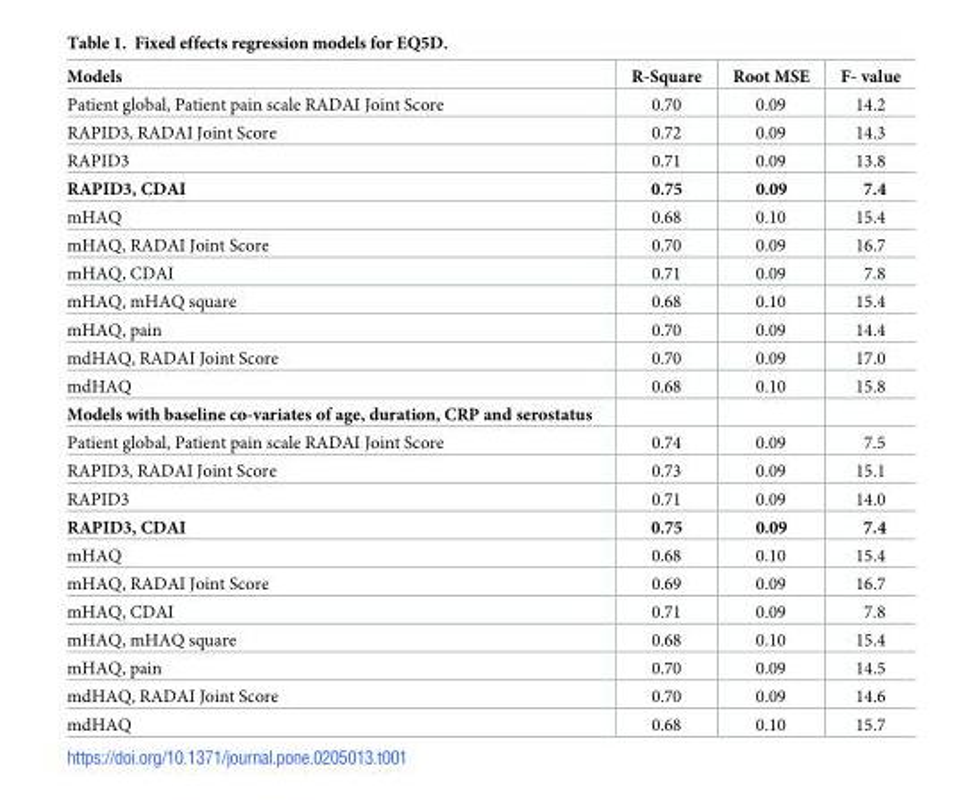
<table><thead><tr><td>Models</td><td>R-Square</td><td>Root MSE</td><td>F- value</td></tr></thead><tbody><tr><td>Patient global, Patient pain scale RADAI Joint Score</td><td>0.70</td><td>0.09</td><td>14.2</td></tr><tr><td>RAPID3, RADAI Joint Score</td><td>0.72</td><td>0.09</td><td>14.3</td></tr><tr><td>RAPID3</td><td>0.71</td><td>0.09</td><td>13.8</td></tr><tr><td>RAPID3, CDAI</td><td>0.75</td><td>0.09</td><td>7.4</td></tr><tr><td>mHAQ</td><td>0.68</td><td>0.10</td><td>15.4</td></tr><tr><td>mHAQ, RADAI Joint Score</td><td>0.70</td><td>0.09</td><td>16.7</td></tr><tr><td>mHAQ, CDAI</td><td>0.71</td><td>0.09</td><td>7.8</td></tr><tr><td>mHAQ, mHAQ square</td><td>0.68</td><td>0.10</td><td>15.4</td></tr><tr><td>mHAQ, pain</td><td>0.70</td><td>0.09</td><td>14.4</td></tr><tr><td>mdHAQ, RADAI Joint Score</td><td>0.70</td><td>0.09</td><td>17.0</td></tr><tr><td>mdHAQ</td><td>0.68</td><td>0.10</td><td>15.8</td></tr><tr><td colspan="4">Models with baseline co-variates of age, duration, CRP and serostatus</td></tr><tr><td>Patient global, Patient pain scale RADAI Joint Score</td><td>0.74</td><td>0.09</td><td>7.5</td></tr><tr><td>RAPID3, RADAI Joint Score</td><td>0.73</td><td>0.09</td><td>15.1</td></tr><tr><td>RAPID3</td><td>0.71</td><td>0.09</td><td>14.0</td></tr><tr><td>RAPID3, CDAI</td><td>0.75</td><td>0.09</td><td>7.4</td></tr><tr><td>mHAQ</td><td>0.68</td><td>0.10</td><td>15.4</td></tr><tr><td>mHAQ, RADAI Joint Score</td><td>0.69</td><td>0.09</td><td>16.7</td></tr><tr><td>mHAQ, CDAI</td><td>0.71</td><td>0.09</td><td>7.8</td></tr><tr><td>mHAQ, mHAQ square</td><td>0.68</td><td>0.10</td><td>15.4</td></tr><tr><td>mHAQ, pain</td><td>0.70</td><td>0.09</td><td>14.5</td></tr><tr><td>mdHAQ, RADAI Joint Score</td><td>0.70</td><td>0.09</td><td>14.6</td></tr><tr><td>mdHAQ</td><td>0.68</td><td>0.10</td><td>15.7</td></tr></tbody></table>